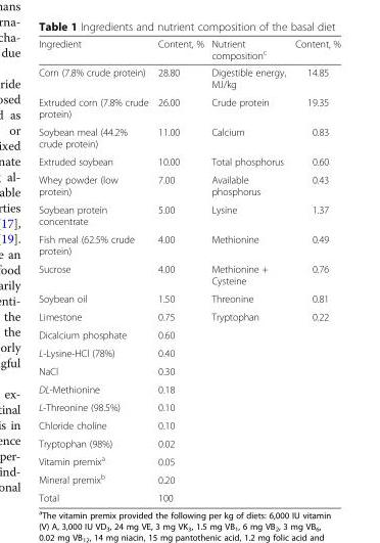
<table><thead><tr><td>Ingredient</td><td>Content, %</td><td>Nutrient composition<sup>c</sup></td><td>Content, %</td></tr></thead><tbody><tr><td>Corn (7.8% crude protein)</td><td>28.80</td><td>Digestible energy, MJ/kg</td><td>14.85</td></tr><tr><td>Extruded corn (7.8% crude protein)</td><td>26.00</td><td>Crude protein</td><td>19.35</td></tr><tr><td>Soybean meal (44.2% crude protein)</td><td>11.00</td><td>Calcium</td><td>0.83</td></tr><tr><td>Extruded soybean</td><td>10.00</td><td>Total phosphorus</td><td>0.60</td></tr><tr><td>Whey powder (low protein)</td><td>7.00</td><td>Available phosphorus</td><td>0.43</td></tr><tr><td>Soybean protein concentrate</td><td>5.00</td><td>Lysine</td><td>1.37</td></tr><tr><td>Fish meal (62.5% crude protein)</td><td>4.00</td><td>Methionine</td><td>0.49</td></tr><tr><td>Sucrose</td><td>4.00</td><td>Methionine + Cysteine</td><td>0.76</td></tr><tr><td>Soybean oil</td><td>1.50</td><td>Threonine</td><td>0.81</td></tr><tr><td>Limestone</td><td>0.75</td><td>Tryptophan</td><td>0.22</td></tr><tr><td>Dicalcium phosphate</td><td>0.60</td><td></td><td></td></tr><tr><td>L-Lysine-HCl (78%)</td><td>0.40</td><td></td><td></td></tr><tr><td>NaCl</td><td>0.30</td><td></td><td></td></tr><tr><td>DL-Methionine</td><td>0.18</td><td></td><td></td></tr><tr><td>L-Threonine (98.5%)</td><td>0.10</td><td></td><td></td></tr><tr><td>Chloride choline</td><td>0.10</td><td></td><td></td></tr><tr><td>Tryptophan (98%)</td><td>0.02</td><td></td><td></td></tr><tr><td>Vitamin premix<sup>a</sup></td><td>0.05</td><td></td><td></td></tr><tr><td>Mineral premix<sup>b</sup></td><td>0.20</td><td></td><td></td></tr><tr><td>Total</td><td>100</td><td></td><td></td></tr></tbody></table>